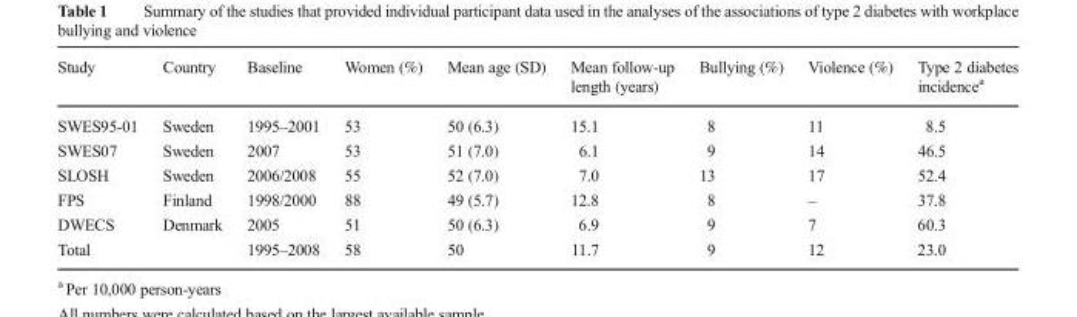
<table><thead><tr><td>Study</td><td>Country</td><td>Baseline</td><td>Women (%)</td><td>Mean age (SD)</td><td>Mean follow-up length (years)</td><td>Bullying (%)</td><td>Violence (%)</td><td>Type 2 diabetes incidence<sup>a</sup></td></tr></thead><tbody><tr><td>SWES95-01</td><td>Sweden</td><td>1995–2001</td><td>53</td><td>50 (6.3)</td><td>15.1</td><td>8</td><td>11</td><td>8.5</td></tr><tr><td>SWES07</td><td>Sweden</td><td>2007</td><td>53</td><td>51 (7.0)</td><td>6.1</td><td>9</td><td>14</td><td>46.5</td></tr><tr><td>SLOSH</td><td>Sweden</td><td>2006/2008</td><td>55</td><td>52 (7.0)</td><td>7.0</td><td>13</td><td>17</td><td>52.4</td></tr><tr><td>FPS</td><td>Finland</td><td>1998/2000</td><td>88</td><td>49 (5.7)</td><td>12.8</td><td>8</td><td>–</td><td>37.8</td></tr><tr><td>DWECS</td><td>Denmark</td><td>2005</td><td>51</td><td>50 (6.3)</td><td>6.9</td><td>9</td><td>7</td><td>60.3</td></tr><tr><td>Total</td><td></td><td>1995–2008</td><td>58</td><td>50</td><td>11.7</td><td>9</td><td>12</td><td>23.0</td></tr></tbody></table>